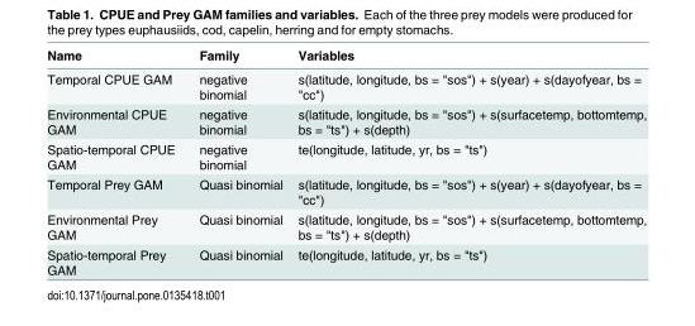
<table><thead><tr><td>Name</td><td>Family</td><td>Variables</td></tr></thead><tbody><tr><td>Temporal CPUE GAM</td><td>negative binomial</td><td>s(latitude, longitude, bs = &quot;sos&quot;) + s(year) + s(dayofyear, bs = &quot;cc&quot;)</td></tr><tr><td>Environmental CPUE GAM</td><td>negative binomial</td><td>s(latitude, longitude, bs = &quot;sos&quot;) + s(surfacetemp, bottomtemp, bs = &quot;ts&quot;) + s(depth)</td></tr><tr><td>Spatio-temporal CPUE GAM</td><td>negative binomial</td><td>te(longitude, latitude, yr, bs = &quot;ts&quot;)</td></tr><tr><td>Temporal Prey GAM</td><td>Quasi binomial</td><td>s(latitude, longitude, bs = &quot;sos&quot;) + s(year) + s(dayofyear, bs = &quot;cc&quot;)</td></tr><tr><td>Environmental Prey GAM</td><td>Quasi binomial</td><td>s(latitude, longitude, bs = &quot;sos&quot;) + s(surfacetemp, bottomtemp, bs = &quot;ts&quot;) + s(depth)</td></tr><tr><td>Spatio-temporal Prey GAM</td><td>Quasi binomial</td><td>te(longitude, latitude, yr, bs = &quot;ts&quot;)</td></tr></tbody></table>